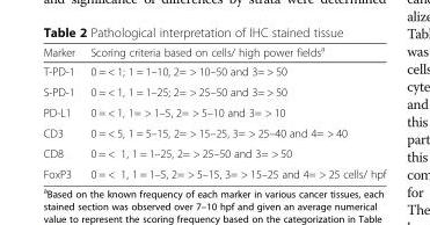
<table><thead><tr><td>Marker</td><td>Scoring criteria based on cells/ high power fields<sup>a</sup></td></tr></thead><tbody><tr><td>T-PD-1</td><td>0 = &lt; 1; 1 = 1–10, 2= &gt; 10–50 and 3= &gt; 50</td></tr><tr><td>S-PD-1</td><td>0 = &lt; 1, 1 = 1–25; 2= &gt; 25–50 and 3= &gt; 50</td></tr><tr><td>PD-L1</td><td>0 = &lt; 1, 1= &gt; 1–5, 2= &gt; 5–10 and 3= &gt; 10</td></tr><tr><td>CD3</td><td>0 = &lt; 5, 1 = 5–15, 2= &gt; 15–25, 3= &gt; 25–40 and 4= &gt; 40</td></tr><tr><td>CD8</td><td>0 = &lt; 1, 1 = 1–25, 2= &gt; 25–50 and 3= &gt; 50</td></tr><tr><td>FoxP3</td><td>0 = &lt; 1, 1 = 1–5, 2= &gt; 5–15, 3= &gt; 15–25 and 4= &gt; 25 cells/ hpf</td></tr></tbody></table>